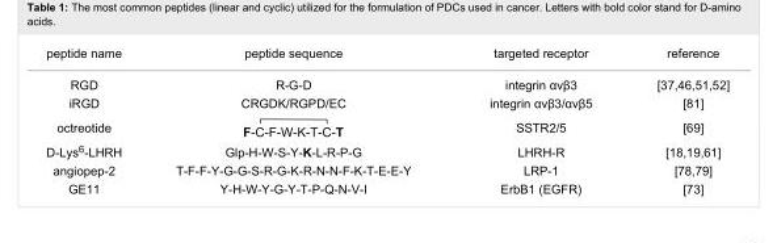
<table><tbody><tr><td>peptide name</td><td>peptide sequence</td><td>targeted receptor</td><td>reference</td></tr><tr><td>RGD</td><td>R-G-D</td><td>integrin αvβ3</td><td>[37,46,51–52]</td></tr><tr><td>iRGD</td><td>CRGDK/RGPD/EC</td><td>integrin αvβ3/αvβ5</td><td>[81]</td></tr><tr><td>octreotide</td><td></td><td>SSTR2/5</td><td>[69]</td></tr><tr><td>D-Lys<sup>6</sup>-LHRH</td><td>Glp-H-W-S-Y-K-L-R-P-G</td><td>LHRH-R</td><td>[18,19,61]</td></tr><tr><td>angiopep-2</td><td>T-F-F-Y-G-G-S-R-G-K-R-N-N-F-K-T-E-E-Y</td><td>LRP-1</td><td>[78–79]</td></tr><tr><td>GE11</td><td>Y-H-W-Y-G-Y-T-P-Q-N-V-I</td><td>ErbB1 (EGFR)</td><td>[73]</td></tr></tbody></table>